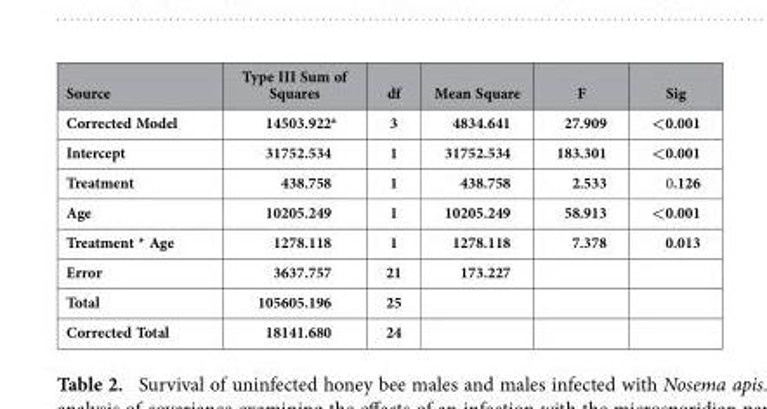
<table><thead><tr><td>Source</td><td>Type III Sum of Squares</td><td>df</td><td>Mean Square</td><td>F</td><td>Sig</td></tr></thead><tbody><tr><td>Corrected Model</td><td>14503.922<sup>a</sup></td><td>3</td><td>4834.641</td><td>27.909</td><td>&lt;0.001</td></tr><tr><td>Intercept</td><td>31752.534</td><td>1</td><td>31752.534</td><td>183.301</td><td>&lt;0.001</td></tr><tr><td>Treatment</td><td>438.758</td><td>1</td><td>438.758</td><td>2.533</td><td>0.126</td></tr><tr><td>Age</td><td>10205.249</td><td>1</td><td>10205.249</td><td>58.913</td><td>&lt;0.001</td></tr><tr><td>Treatment * Age</td><td>1278.118</td><td>1</td><td>1278.118</td><td>7.378</td><td>0.013</td></tr><tr><td>Error</td><td>3637.757</td><td>21</td><td>173.227</td><td></td><td></td></tr><tr><td>Total</td><td>105605.196</td><td>25</td><td></td><td></td><td></td></tr><tr><td>Corrected Total</td><td>18141.680</td><td>24</td><td></td><td></td><td></td></tr></tbody></table>